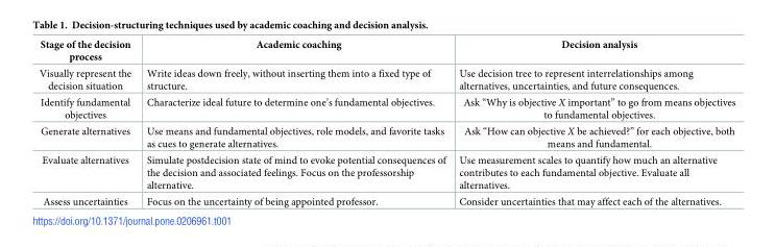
<table><thead><tr><td>Stage of the decision process</td><td>Academic coaching</td><td>Decision analysis</td></tr></thead><tbody><tr><td>Visually represent the decision situation</td><td>Write ideas down freely, without inserting them into a fixed type of structure.</td><td>Use decision tree to represent interrelationships among alternatives, uncertainties, and future consequences.</td></tr><tr><td>Identify fundamental objectives</td><td>Characterize ideal future to determine one’s fundamental objectives.</td><td>Ask “Why is objective X important” to go from means objectives to fundamental objectives.</td></tr><tr><td>Generate alternatives</td><td>Use means and fundamental objectives, role models, and favorite tasks as cues to generate alternatives.</td><td>Ask “How can objective X be achieved?” for each objective, both means and fundamental.</td></tr><tr><td>Evaluate alternatives</td><td>Simulate postdecision state of mind to evoke potential consequences of the decision and associated feelings. Focus on the professorship alternative.</td><td>Use measurement scales to quantify how much an alternative contributes to each fundamental objective. Evaluate all alternatives.</td></tr><tr><td>Assess uncertainties</td><td>Focus on the uncertainty of being appointed professor.</td><td>Consider uncertainties that may affect each of the alternatives.</td></tr></tbody></table>